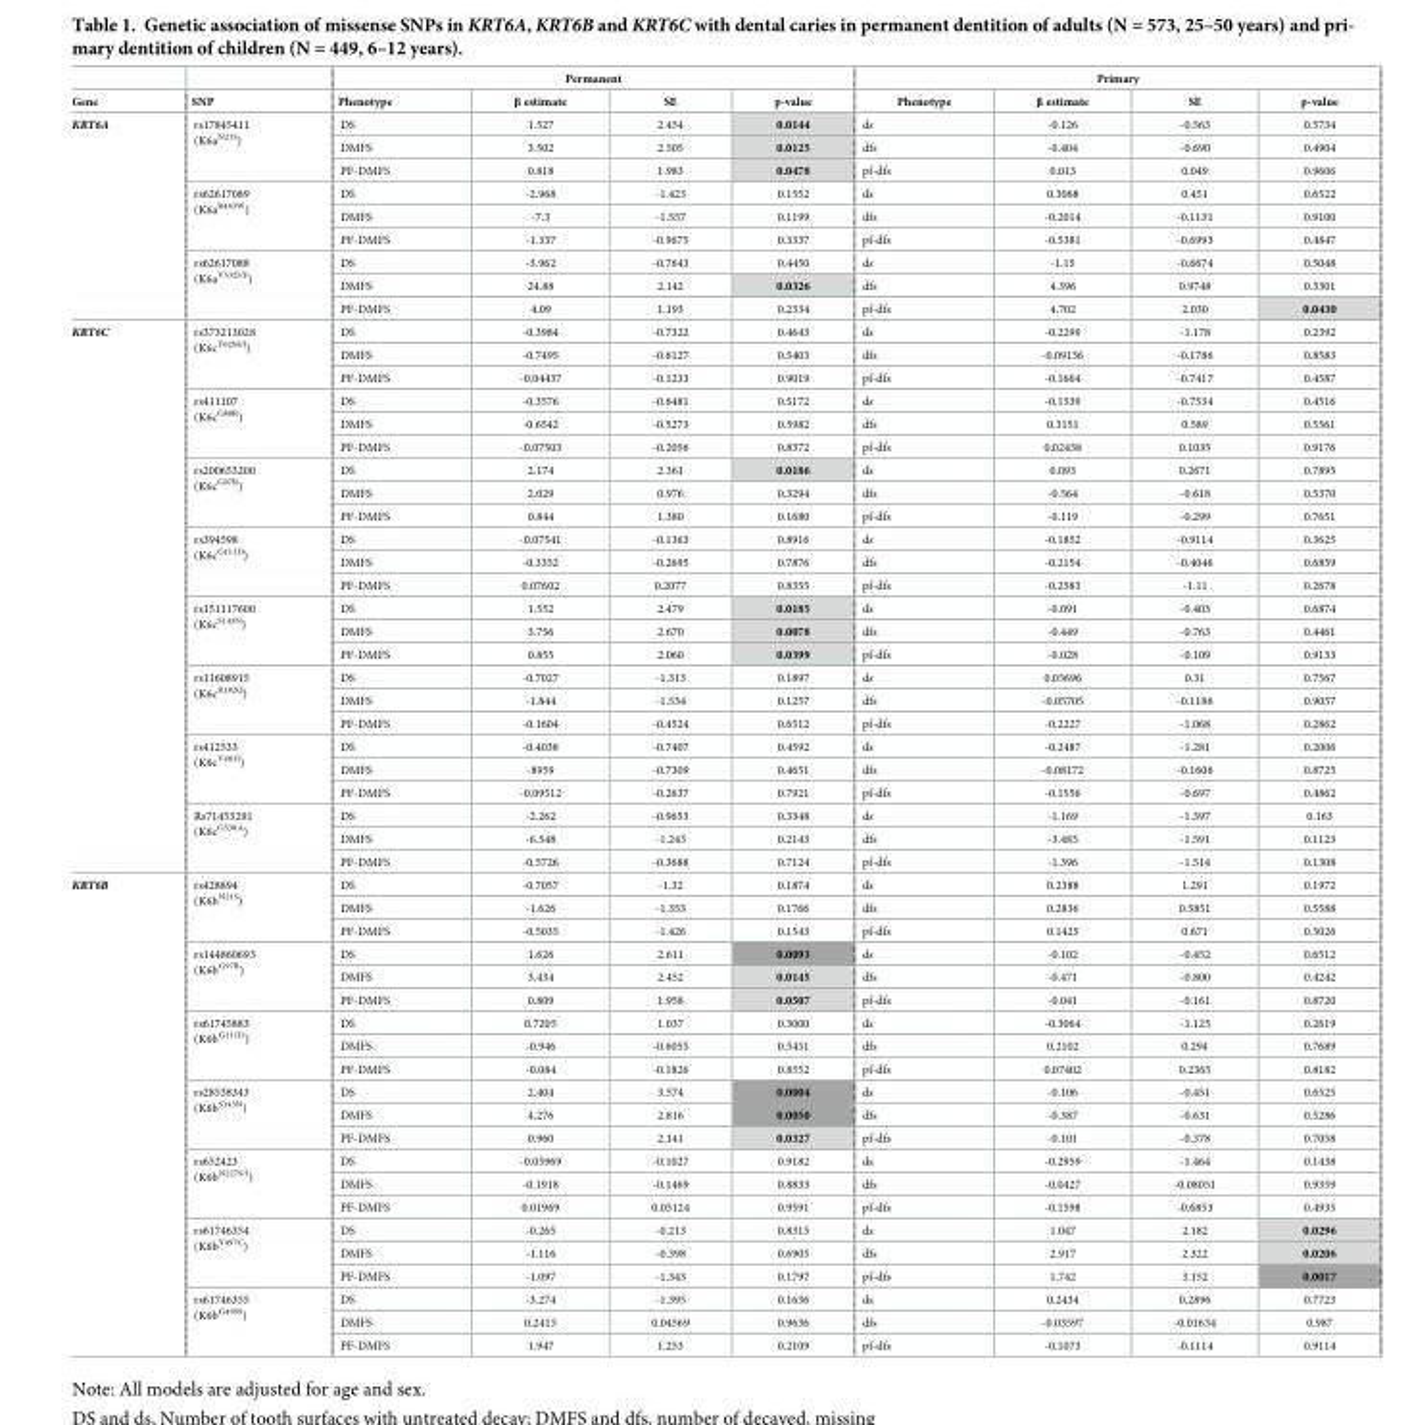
<table><thead><tr><td rowspan="2">Gene</td><td rowspan="2">SNP</td><td colspan="4">Permanent</td><td colspan="4">Primary</td></tr><tr><td>Phenotype</td><td>β estimate</td><td>SE</td><td>p-value</td><td>Phenotype</td><td>β estimate</td><td>SE</td><td>p-value</td></tr></thead><tbody><tr><td rowspan="9">KRT6A</td><td rowspan="3">rs17845411 (K6a<sup>N21S</sup>)</td><td>DS</td><td>1.527</td><td>2.454</td><td>0.0144</td><td>ds</td><td>-0.126</td><td>-0.563</td><td>0.5734</td></tr><tr><td>DMFS</td><td>3.502</td><td>2.505</td><td>0.0125</td><td>dfs</td><td>-0.404</td><td>-0.690</td><td>0.4904</td></tr><tr><td>PF-DMFS</td><td>0.818</td><td>1.983</td><td>0.0478</td><td>pf-dfs</td><td>0.013</td><td>0.049</td><td>0.9606</td></tr><tr><td rowspan="3">rs62617089 (K6a<sup>R443W</sup>)</td><td>DS</td><td>-2.968</td><td>-1.423</td><td>0.1552</td><td>ds</td><td>0.3068</td><td>0.451</td><td>0.6522</td></tr><tr><td>DMFS</td><td>-7.3</td><td>-1.557</td><td>0.1199</td><td>dfs</td><td>-0.2014</td><td>-0.1131</td><td>0.9100</td></tr><tr><td>PF-DMFS</td><td>-1.337</td><td>-0.9675</td><td>0.3337</td><td>pf-dfs</td><td>-0.5381</td><td>-0.6993</td><td>0.4847</td></tr><tr><td rowspan="3">rs62617088 (K6a<sup>V532I/F</sup>)</td><td>DS</td><td>-3.962</td><td>-0.7643</td><td>0.4450</td><td>ds</td><td>-1.15</td><td>-0.6674</td><td>0.5048</td></tr><tr><td>DMFS</td><td>24.88</td><td>2.142</td><td>0.0326</td><td>dfs</td><td>4.396</td><td>0.9748</td><td>0.3301</td></tr><tr><td>PF-DMFS</td><td>4.09</td><td>1.193</td><td>0.2334</td><td>pf-dfs</td><td>4.702</td><td>2.030</td><td>0.0430</td></tr><tr><td rowspan="24">KRT6C</td><td rowspan="3">rs373213028 (K6c<sup>Y62M/I</sup>)</td><td>DS</td><td>-0.3984</td><td>-0.7322</td><td>0.4643</td><td>ds</td><td>-0.2299</td><td>-1.178</td><td>0.2392</td></tr><tr><td>DMFS</td><td>-0.7495</td><td>-0.6127</td><td>0.5403</td><td>dfs</td><td>-0.09136</td><td>-0.1786</td><td>0.8583</td></tr><tr><td>PF-DMFS</td><td>-0.04437</td><td>-0.1233</td><td>0.9019</td><td>pf-dfs</td><td>-0.1664</td><td>-0.7417</td><td>0.4587</td></tr><tr><td rowspan="3">rs411107 (K6c<sup>G88R</sup>)</td><td>DS</td><td>-0.3576</td><td>-0.6481</td><td>0.5172</td><td>ds</td><td>-0.1539</td><td>-0.7534</td><td>0.4516</td></tr><tr><td>DMFS</td><td>-0.6542</td><td>-0.5273</td><td>0.5982</td><td>dfs</td><td>0.3151</td><td>0.589</td><td>0.5561</td></tr><tr><td>PF-DMFS</td><td>-0.07503</td><td>-0.2056</td><td>0.8372</td><td>pf-dfs</td><td>0.02438</td><td>0.1035</td><td>0.9176</td></tr><tr><td rowspan="3">rs200653200 (K6c<sup>G97R</sup>)</td><td>DS</td><td>2.174</td><td>2.361</td><td>0.0186</td><td>ds</td><td>0.093</td><td>0.2671</td><td>0.7895</td></tr><tr><td>DMFS</td><td>2.029</td><td>0.976</td><td>0.3294</td><td>dfs</td><td>-0.564</td><td>-0.618</td><td>0.5370</td></tr><tr><td>PF-DMFS</td><td>0.844</td><td>1.380</td><td>0.1680</td><td>pf-dfs</td><td>-0.119</td><td>-0.299</td><td>0.7651</td></tr><tr><td rowspan="3">rs394598 (K6c<sup>G111D</sup>)</td><td>DS</td><td>-0.07541</td><td>-0.1363</td><td>0.8916</td><td>ds</td><td>-0.1852</td><td>-0.9114</td><td>0.3625</td></tr><tr><td>DMFS</td><td>-0.3352</td><td>-0.2695</td><td>0.7876</td><td>dfs</td><td>-0.2154</td><td>-0.4046</td><td>0.6859</td></tr><tr><td>PF-DMFS</td><td>0.07602</td><td>0.2077</td><td>0.8355</td><td>pf-dfs</td><td>-0.2583</td><td>-1.11</td><td>0.2678</td></tr><tr><td rowspan="3">rs151117600 (K6c<sup>S143N</sup>)</td><td>DS</td><td>1.552</td><td>2.479</td><td>0.0185</td><td>ds</td><td>-0.091</td><td>-0.403</td><td>0.6874</td></tr><tr><td>DMFS</td><td>3.756</td><td>2.670</td><td>0.0078</td><td>dfs</td><td>-0.449</td><td>-0.763</td><td>0.4461</td></tr><tr><td>PF-DMFS</td><td>0.855</td><td>2.060</td><td>0.0399</td><td>pf-dfs</td><td>-0.028</td><td>-0.109</td><td>0.9133</td></tr><tr><td rowspan="3">rs11608915 (K6c<sup>R182Q</sup>)</td><td>DS</td><td>-0.7027</td><td>-1.313</td><td>0.1897</td><td>ds</td><td>0.05696</td><td>0.31</td><td>0.7567</td></tr><tr><td>DMFS</td><td>-1.844</td><td>-1.534</td><td>0.1257</td><td>dfs</td><td>-0.05705</td><td>-0.1186</td><td>0.9057</td></tr><tr><td>PF-DMFS</td><td>-0.1604</td><td>-0.4524</td><td>0.6512</td><td>pf-dfs</td><td>-0.2227</td><td>-1.068</td><td>0.2862</td></tr><tr><td rowspan="3">rs412533 (K6c<sup>V481I</sup>)</td><td>DS</td><td>-0.4038</td><td>-0.7407</td><td>0.4592</td><td>ds</td><td>-0.2487</td><td>-1.281</td><td>0.2006</td></tr><tr><td>DMFS</td><td>-8959</td><td>-0.7309</td><td>0.4651</td><td>dfs</td><td>-0.08172</td><td>-0.1606</td><td>0.8725</td></tr><tr><td>PF-DMFS</td><td>-0.09512</td><td>-0.2637</td><td>0.7921</td><td>pf-dfs</td><td>-0.1556</td><td>-0.697</td><td>0.4862</td></tr><tr><td rowspan="3">Rs71453291 (K6c<sup>G538A</sup>)</td><td>DS</td><td>-2.262</td><td>-0.9653</td><td>0.3348</td><td>ds</td><td>-1.169</td><td>-1.397</td><td>0.163</td></tr><tr><td>DMFS</td><td>-6.548</td><td>-1.243</td><td>0.2143</td><td>dfs</td><td>-3.483</td><td>-1.591</td><td>0.1123</td></tr><tr><td>PF-DMFS</td><td>-0.5726</td><td>-0.3688</td><td>0.7124</td><td>pf-dfs</td><td>-1.396</td><td>-1.514</td><td>0.1308</td></tr><tr><td rowspan="21">KRT6B</td><td rowspan="3">rs428894 (K6b<sup>N21S</sup>)</td><td>DS</td><td>-0.7057</td><td>-1.32</td><td>0.1874</td><td>ds</td><td>0.2388</td><td>1.291</td><td>0.1972</td></tr><tr><td>DMFS</td><td>-1.626</td><td>-1.353</td><td>0.1766</td><td>dfs</td><td>0.2836</td><td>0.5851</td><td>0.5588</td></tr><tr><td>PF-DMFS</td><td>-0.5035</td><td>-1.426</td><td>0.1543</td><td>pf-dfs</td><td>0.1425</td><td>0.671</td><td>0.5026</td></tr><tr><td rowspan="3">rs144860693 (K6b<sup>G97R</sup>)</td><td>DS</td><td>1.626</td><td>2.611</td><td>0.0093</td><td>ds</td><td>-0.102</td><td>-0.452</td><td>0.6512</td></tr><tr><td>DMFS</td><td>3.434</td><td>2.452</td><td>0.0145</td><td>dfs</td><td>-0.471</td><td>-0.800</td><td>0.4242</td></tr><tr><td>PF-DMFS</td><td>0.809</td><td>1.958</td><td>0.0507</td><td>pf-dfs</td><td>-0.041</td><td>-0.161</td><td>0.8720</td></tr><tr><td rowspan="3">rs61745883 (K6b<sup>G111D</sup>)</td><td>DS</td><td>0.7205</td><td>1.037</td><td>0.3000</td><td>ds</td><td>-0.3064</td><td>-1.123</td><td>0.2619</td></tr><tr><td>DMFS</td><td>-0.946</td><td>-0.6055</td><td>0.5451</td><td>dfs</td><td>0.2102</td><td>0.294</td><td>0.7689</td></tr><tr><td>PF-DMFS</td><td>-0.084</td><td>-0.1826</td><td>0.8552</td><td>pf-dfs</td><td>0.07402</td><td>0.2365</td><td>0.8182</td></tr><tr><td rowspan="3">rs28538343 (K6b<sup>S143N</sup>)</td><td>DS</td><td>2.404</td><td>3.574</td><td>0.0004</td><td>ds</td><td>-0.106</td><td>-0.451</td><td>0.6525</td></tr><tr><td>DMFS</td><td>4.276</td><td>2.816</td><td>0.0050</td><td>dfs</td><td>-0.387</td><td>-0.631</td><td>0.5286</td></tr><tr><td>PF-DMFS</td><td>0.960</td><td>2.141</td><td>0.0327</td><td>pf-dfs</td><td>-0.101</td><td>-0.378</td><td>0.7058</td></tr><tr><td rowspan="3">rs652423 (K6b<sup>N227S/I</sup>)</td><td>DS</td><td>-0.05969</td><td>-0.1027</td><td>0.9182</td><td>ds</td><td>-0.2959</td><td>-1.464</td><td>0.1438</td></tr><tr><td>DMFS</td><td>-0.1918</td><td>-0.1469</td><td>0.8833</td><td>dfs</td><td>-0.0427</td><td>-0.08051</td><td>0.9359</td></tr><tr><td>PF-DMFS</td><td>0.01969</td><td>0.05124</td><td>0.9591</td><td>pf-dfs</td><td>-0.1598</td><td>-0.6853</td><td>0.4935</td></tr><tr><td rowspan="3">rs61746354 (K6b<sup>Y497C</sup>)</td><td>DS</td><td>-0.265</td><td>-0.213</td><td>0.8315</td><td>ds</td><td>1.047</td><td>2.182</td><td>0.0296</td></tr><tr><td>DMFS</td><td>-1.116</td><td>-0.398</td><td>0.6905</td><td>dfs</td><td>2.917</td><td>2.322</td><td>0.0206</td></tr><tr><td>PF-DMFS</td><td>-1.097</td><td>-1.343</td><td>0.1797</td><td>pf-dfs</td><td>1.742</td><td>3.152</td><td>0.0017</td></tr><tr><td rowspan="3">rs61746355 (K6b<sup>G499S</sup>)</td><td>DS</td><td>-3.274</td><td>-1.395</td><td>0.1636</td><td>ds</td><td>0.2434</td><td>0.2896</td><td>0.7723</td></tr><tr><td>DMFS</td><td>0.2415</td><td>0.04569</td><td>0.9636</td><td>dfs</td><td>-0.03597</td><td>-0.01634</td><td>0.987</td></tr><tr><td>PF-DMFS</td><td>1.947</td><td>1.253</td><td>0.2109</td><td>pf-dfs</td><td>-0.1073</td><td>-0.1114</td><td>0.9114</td></tr></tbody></table>